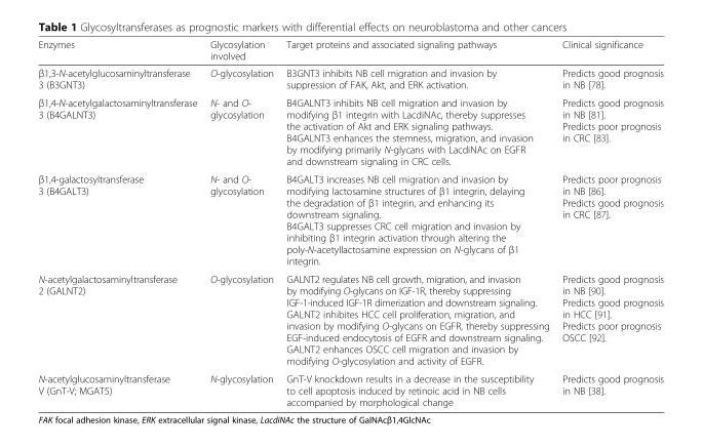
<table><thead><tr><td>Enzymes</td><td>Glycosylation involved</td><td>Target proteins and associated signaling pathways</td><td>Clinical significance</td></tr></thead><tbody><tr><td>β1,3-N-acetylglucosaminyltransferase 3 (B3GNT3)</td><td>O-glycosylation</td><td>B3GNT3 inhibits NB cell migration and invasion by suppression of FAK, Akt, and ERK activation.</td><td>Predicts good prognosis in NB [78].</td></tr><tr><td>β1,4-N-acetylgalactosaminyltransferase 3 (B4GALNT3)</td><td>N- and O- glycosylation</td><td>B4GALNT3 inhibits NB cell migration and invasion by modifying β1 integrin with LacdiNAc, thereby suppresses the activation of Akt and ERK signaling pathways. B4GALNT3 enhances the stemness, migration, and invasion by modifying primarily N-glycans with LacdiNAc on EGFR and downstream signaling in CRC cells.</td><td>Predicts good prognosis in NB [81]. Predicts poor prognosis in CRC [83].</td></tr><tr><td>β1,4-galactosyltransferase 3 (B4GALT3)</td><td>N- and O- glycosylation</td><td>B4GALT3 increases NB cell migration and invasion by modifying lactosamine structures of β1 integrin, delaying the degradation of β1 integrin, and enhancing its downstream signaling. B4GALT3 suppresses CRC cell migration and invasion by inhibiting β1 integrin activation through altering the poly-N-acetyllactosamine expression on N-glycans of β1 integrin.</td><td>Predicts poor prognosis in NB [86]. Predicts good prognosis in CRC [87].</td></tr><tr><td>N-acetylgalactosaminyltransferase 2 (GALNT2)</td><td>O-glycosylation</td><td>GALNT2 regulates NB cell growth, migration, and invasion by modifying O-glycans on IGF-1R, thereby suppressing IGF-1-induced IGF-1R dimerization and downstream signaling. GALNT2 inhibites HCC cell proliferation, migration, and invasion by modifying O-glycans on EGFR, thereby suppressing EGF-induced endocytosis of EGFR and downstream signaling. GALNT2 enhances OSCC cell migration and invasion by modifying O-glycosylation and activity of EGFR.</td><td>Predicts good prognosis in NB [90]. Predicts good prognosis in HCC [91]. Predicts poor prognosis OSCC [92].</td></tr><tr><td>N-acetylglucosaminyltransferase V (GnT-V; MGAT5)</td><td>N-glycosylation</td><td>GnT-V knockdown results in a decrease in the susceptibility to cell apoptosis induced by retinoic acid in NB cells accompanied by morphological change</td><td>Predicts good prognosis in NB [38].</td></tr></tbody></table>